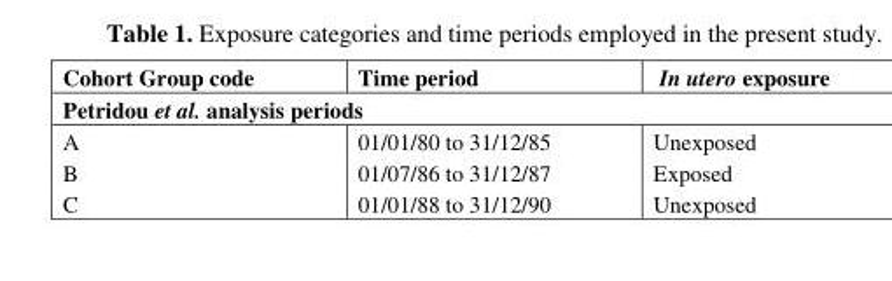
<table><thead><tr><td>Cohort Group code</td><td>Time period</td><td>In utero exposure</td></tr></thead><tbody><tr><td colspan="3">Petridou et al. analysis periods</td></tr><tr><td>A B C</td><td>01/01/80 to 31/12/85 01/07/86 to 31/12/87 01/01/88 to 31/12/90</td><td>Unexposed Exposed Unexposed</td></tr></tbody></table>